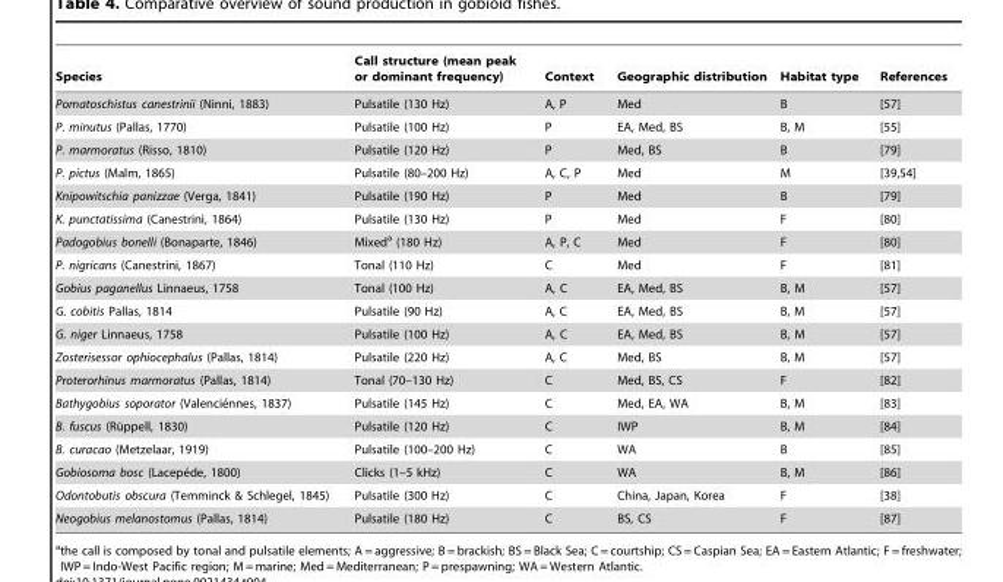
<table><thead><tr><td>Species</td><td>Call structure (mean peak or dominant frequency)</td><td>Context</td><td>Geographic distribution</td><td>Habitat type</td><td>References</td></tr></thead><tbody><tr><td>Pomatoschistus canestrinii (Ninni, 1883)</td><td>Pulsatile (130 Hz)</td><td>A, P</td><td>Med</td><td>B</td><td>[57]</td></tr><tr><td>P. minutus (Pallas, 1770)</td><td>Pulsatile (100 Hz)</td><td>P</td><td>EA, Med, BS</td><td>B, M</td><td>[55]</td></tr><tr><td>P. marmoratus (Risso, 1810)</td><td>Pulsatile (120 Hz)</td><td>P</td><td>Med, BS</td><td>B</td><td>[79]</td></tr><tr><td>P. pictus (Malm, 1865)</td><td>Pulsatile (80–200 Hz)</td><td>A, C, P</td><td>Med</td><td>M</td><td>[39,54]</td></tr><tr><td>Knipowitschia panizzae (Verga, 1841)</td><td>Pulsatile (190 Hz)</td><td>P</td><td>Med</td><td>B</td><td>[79]</td></tr><tr><td>K. punctatissima (Canestrini, 1864)</td><td>Pulsatile (130 Hz)</td><td>P</td><td>Med</td><td>F</td><td>[80]</td></tr><tr><td>Padogobius bonelli (Bonaparte, 1846)</td><td>Mixed<sup>a</sup> (180 Hz)</td><td>A, P, C</td><td>Med</td><td>F</td><td>[80]</td></tr><tr><td>P. nigricans (Canestrini, 1867)</td><td>Tonal (110 Hz)</td><td>C</td><td>Med</td><td>F</td><td>[81]</td></tr><tr><td>Gobius paganellus Linnaeus, 1758</td><td>Tonal (100 Hz)</td><td>A, C</td><td>EA, Med, BS</td><td>B, M</td><td>[57]</td></tr><tr><td>G. cobitis Pallas, 1814</td><td>Pulsatile (90 Hz)</td><td>A, C</td><td>EA, Med, BS</td><td>B, M</td><td>[57]</td></tr><tr><td>G. niger Linnaeus, 1758</td><td>Pulsatile (100 Hz)</td><td>A, C</td><td>EA, Med, BS</td><td>B, M</td><td>[57]</td></tr><tr><td>Zosterisessor ophiocephalus (Pallas, 1814)</td><td>Pulsatile (220 Hz)</td><td>A, C</td><td>Med, BS</td><td>B, M</td><td>[57]</td></tr><tr><td>Proterorhinus marmoratus (Pallas, 1814)</td><td>Tonal (70–130 Hz)</td><td>C</td><td>Med, BS, CS</td><td>F</td><td>[82]</td></tr><tr><td>Bathygobius soporator (Valencie´nnes, 1837)</td><td>Pulsatile (145 Hz)</td><td>C</td><td>Med, EA, WA</td><td>B, M</td><td>[83]</td></tr><tr><td>B. fuscus (Ru¨ppell, 1830)</td><td>Pulsatile (120 Hz)</td><td>C</td><td>IWP</td><td>B, M</td><td>[84]</td></tr><tr><td>B. curacao (Metzelaar, 1919)</td><td>Pulsatile (100–200 Hz)</td><td>C</td><td>WA</td><td>B</td><td>[85]</td></tr><tr><td>Gobiosoma bosc (Lacepe´de, 1800)</td><td>Clicks (1–5 kHz)</td><td>C</td><td>WA</td><td>B, M</td><td>[86]</td></tr><tr><td>Odontobutis obscura (Temminck &amp; Schlegel, 1845)</td><td>Pulsatile (300 Hz)</td><td>C</td><td>China, Japan, Korea</td><td>F</td><td>[38]</td></tr><tr><td>Neogobius melanostomus (Pallas, 1814)</td><td>Pulsatile (180 Hz)</td><td>C</td><td>BS, CS</td><td>F</td><td>[87]</td></tr></tbody></table>